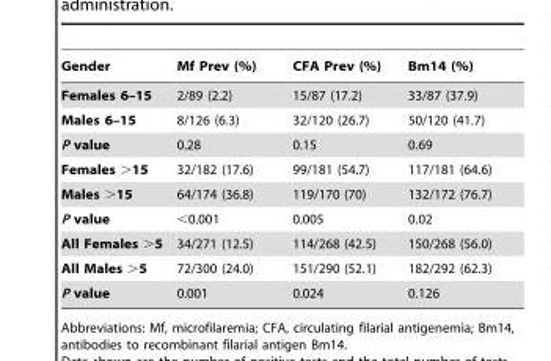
<table><thead><tr><td>Gender</td><td>Mf Prev (%)</td><td>CFA Prev (%)</td><td>Bm14 (%)</td></tr></thead><tbody><tr><td>Females 6–15</td><td>2/89 (2.2)</td><td>15/87 (17.2)</td><td>33/87 (37.9)</td></tr><tr><td>Males 6–15</td><td>8/126 (6.3)</td><td>32/120 (26.7)</td><td>50/120 (41.7)</td></tr><tr><td>P value</td><td>0.28</td><td>0.15</td><td>0.69</td></tr><tr><td>Females &gt;15</td><td>32/182 (17.6)</td><td>99/181 (54.7)</td><td>117/181 (64.6)</td></tr><tr><td>Males &gt;15</td><td>64/174 (36.8)</td><td>119/170 (70)</td><td>132/172 (76.7)</td></tr><tr><td>P value</td><td>&lt;0.001</td><td>0.005</td><td>0.02</td></tr><tr><td>All Females &gt;5</td><td>34/271 (12.5)</td><td>114/268 (42.5)</td><td>150/268 (56.0)</td></tr><tr><td>All Males &gt;5</td><td>72/300 (24.0)</td><td>151/290 (52.1)</td><td>182/292 (62.3)</td></tr><tr><td>P value</td><td>0.001</td><td>0.024</td><td>0.126</td></tr></tbody></table>